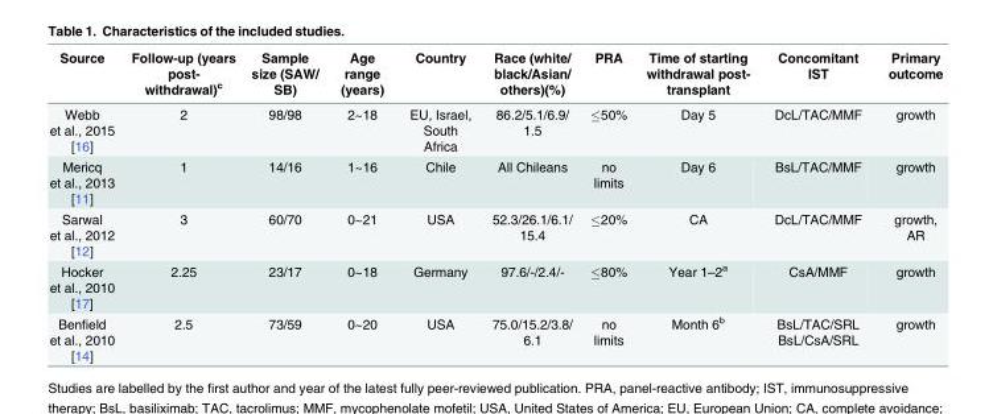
<table><thead><tr><td>Source</td><td>Follow-up (years post- withdrawal)<sup>c</sup></td><td>Sample size (SAW/ SB)</td><td>Age range (years)</td><td>Country</td><td>Race (white/ black/Asian/ others)(%)</td><td>PRA</td><td>Time of starting withdrawal post- transplant</td><td>Concomitant IST</td><td>Primary outcome</td></tr></thead><tbody><tr><td>Webb et al., 2015 [16]</td><td>2</td><td>98/98</td><td>2~18</td><td>EU, Israel, South Africa</td><td>86.2/5.1/6.9/ 1.5</td><td>≤50%</td><td>Day 5</td><td>DcL/TAC/MMF</td><td>growth</td></tr><tr><td>Mericq et al., 2013 [11]</td><td>1</td><td>14/16</td><td>1~16</td><td>Chile</td><td>All Chileans</td><td>no limits</td><td>Day 6</td><td>BsL/TAC/MMF</td><td>growth</td></tr><tr><td>Sarwal et al., 2012 [12]</td><td>3</td><td>60/70</td><td>0~21</td><td>USA</td><td>52.3/26.1/6.1/ 15.4</td><td>≤20%</td><td>CA</td><td>DcL/TAC/MMF</td><td>growth, AR</td></tr><tr><td>Hocker et al., 2010 [17]</td><td>2.25</td><td>23/17</td><td>0~18</td><td>Germany</td><td>97.6/-/2.4/-</td><td>≤80%</td><td>Year 1–2<sup>a</sup></td><td>CsA/MMF</td><td>growth</td></tr><tr><td>Benfield et al., 2010 [14]</td><td>2.5</td><td>73/59</td><td>0~20</td><td>USA</td><td>75.0/15.2/3.8/ 6.1</td><td>no limits</td><td>Month 6<sup>b</sup></td><td>BsL/TAC/SRL BsL/CsA/SRL</td><td>growth</td></tr></tbody></table>